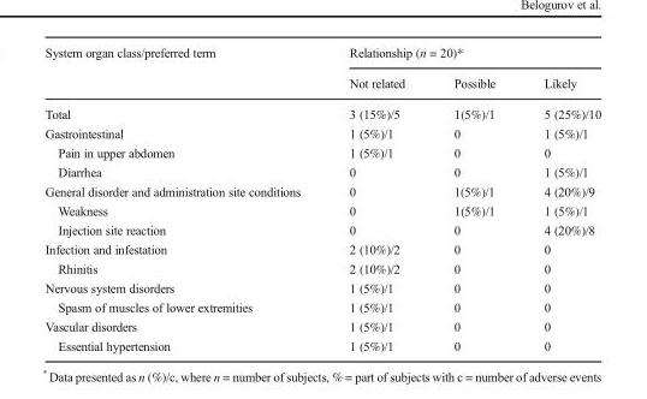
<table><thead><tr><td rowspan="2">System organ class/preferred term</td><td colspan="3">Relationship (n = 20)*</td></tr><tr><td>Not related</td><td>Possible</td><td>Likely</td></tr></thead><tbody><tr><td>Total</td><td>3 (15%)/5</td><td>1(5%)/1</td><td>5 (25%)/10</td></tr><tr><td>Gastrointestinal</td><td>1 (5%)/1</td><td>0</td><td>1 (5%)/1</td></tr><tr><td>Pain in upper abdomen</td><td>1 (5%)/1</td><td>0</td><td>0</td></tr><tr><td>Diarrhea</td><td>0</td><td>0</td><td>1 (5%)/1</td></tr><tr><td>General disorder and administration site conditions</td><td>0</td><td>1(5%)/1</td><td>4 (20%)/9</td></tr><tr><td>Weakness</td><td>0</td><td>1(5%)/1</td><td>1 (5%)/1</td></tr><tr><td>Injection site reaction</td><td>0</td><td>0</td><td>4 (20%)/8</td></tr><tr><td>Infection and infestation</td><td>2 (10%)/2</td><td>0</td><td>0</td></tr><tr><td>Rhinitis</td><td>2 (10%)/2</td><td>0</td><td>0</td></tr><tr><td>Nervous system disorders</td><td>1 (5%)/1</td><td>0</td><td>0</td></tr><tr><td>Spasm of muscles of lower extremities</td><td>1 (5%)/1</td><td>0</td><td>0</td></tr><tr><td>Vascular disorders</td><td>1 (5%)/1</td><td>0</td><td>0</td></tr><tr><td>Essential hypertension</td><td>1 (5%)/1</td><td>0</td><td>0</td></tr></tbody></table>